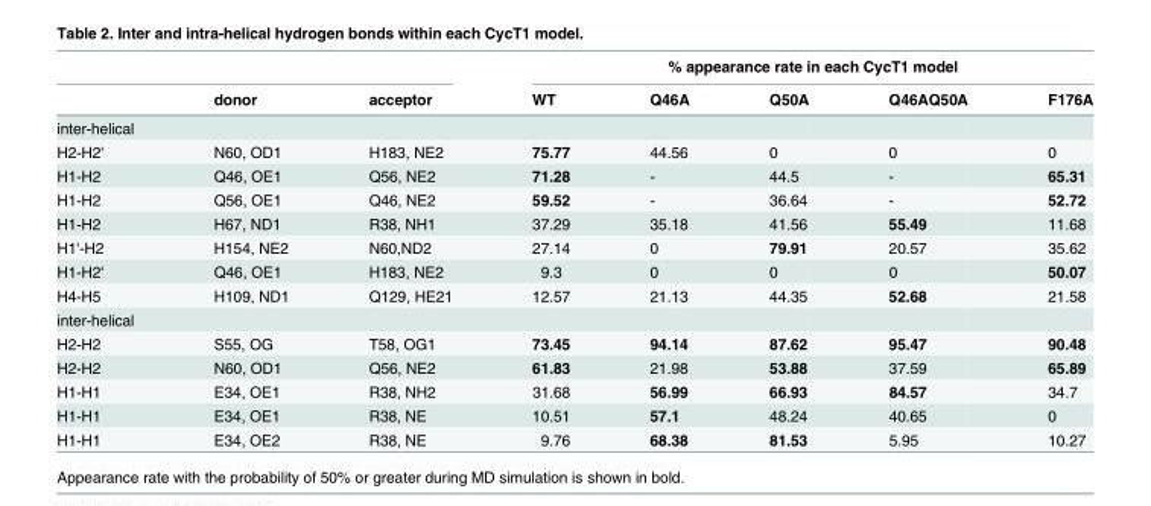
<table><thead><tr><td rowspan="2"></td><td rowspan="2">donor</td><td rowspan="2">acceptor</td><td colspan="5">% appearance rate in each CycT1 model</td></tr><tr><td>WT</td><td>Q46A</td><td>Q50A</td><td>Q46AQ50A</td><td>F176A</td></tr></thead><tbody><tr><td colspan="8">inter-helical</td></tr><tr><td>H2-H2&#x27;</td><td>N60, OD1</td><td>H183, NE2</td><td>75.77</td><td>44.56</td><td>0</td><td>0</td><td>0</td></tr><tr><td>H1-H2</td><td>Q46, OE1</td><td>Q56, NE2</td><td>71.28</td><td>-</td><td>44.5</td><td>-</td><td>65.31</td></tr><tr><td>H1-H2</td><td>Q56, OE1</td><td>Q46, NE2</td><td>59.52</td><td>-</td><td>36.64</td><td>-</td><td>52.72</td></tr><tr><td>H1-H2</td><td>H67, ND1</td><td>R38, NH1</td><td>37.29</td><td>35.18</td><td>41.56</td><td>55.49</td><td>11.68</td></tr><tr><td>H1&#x27;-H2</td><td>H154, NE2</td><td>N60,ND2</td><td>27.14</td><td>0</td><td>79.91</td><td>20.57</td><td>35.62</td></tr><tr><td>H1-H2&#x27;</td><td>Q46, OE1</td><td>H183, NE2</td><td>9.3</td><td>0</td><td>0</td><td>0</td><td>50.07</td></tr><tr><td>H4-H5</td><td>H109, ND1</td><td>Q129, HE21</td><td>12.57</td><td>21.13</td><td>44.35</td><td>52.68</td><td>21.58</td></tr><tr><td colspan="8">inter-helical</td></tr><tr><td>H2-H2</td><td>S55, OG</td><td>T58, OG1</td><td>73.45</td><td>94.14</td><td>87.62</td><td>95.47</td><td>90.48</td></tr><tr><td>H2-H2</td><td>N60, OD1</td><td>Q56, NE2</td><td>61.83</td><td>21.98</td><td>53.88</td><td>37.59</td><td>65.89</td></tr><tr><td>H1-H1</td><td>E34, OE1</td><td>R38, NH2</td><td>31.68</td><td>56.99</td><td>66.93</td><td>84.57</td><td>34.7</td></tr><tr><td>H1-H1</td><td>E34, OE1</td><td>R38, NE</td><td>10.51</td><td>57.1</td><td>48.24</td><td>40.65</td><td>0</td></tr><tr><td>H1-H1</td><td>E34, OE2</td><td>R38, NE</td><td>9.76</td><td>68.38</td><td>81.53</td><td>5.95</td><td>10.27</td></tr></tbody></table>